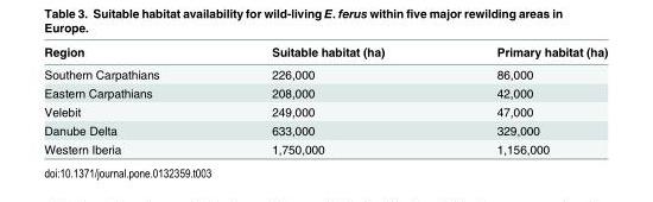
<table><thead><tr><td>Region</td><td>Suitable habitat (ha)</td><td>Primary habitat (ha)</td></tr></thead><tbody><tr><td>Southern Carpathians</td><td>226,000</td><td>86,000</td></tr><tr><td>Eastern Carpathians</td><td>208,000</td><td>42,000</td></tr><tr><td>Velebit</td><td>249,000</td><td>47,000</td></tr><tr><td>Danube Delta</td><td>633,000</td><td>329,000</td></tr><tr><td>Western Iberia</td><td>1,750,000</td><td>1,156,000</td></tr></tbody></table>